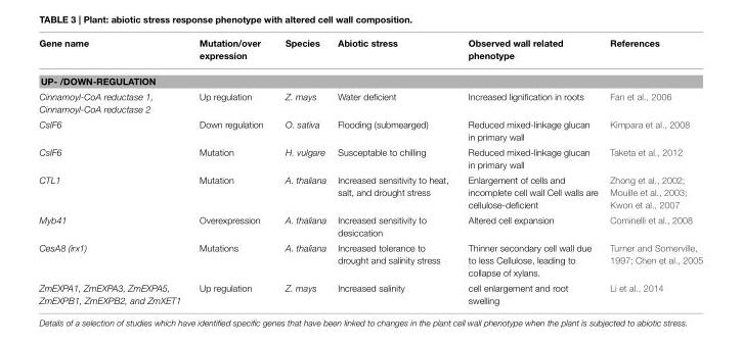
<table><thead><tr><td>Gene name</td><td>Mutation/over expression</td><td>Species</td><td>Abiotic stress</td><td>Observed wall related phenotype</td><td>References</td></tr></thead><tbody><tr><td colspan="6">UP- /DOWN-REGULATION</td></tr><tr><td>Cinnamoyl-CoA reductase 1, Cinnamoyl-CoA reductase 2</td><td>Up regulation</td><td>Z. mays</td><td>Water deficient</td><td>Increased lignification in roots</td><td>Fan et al., 2006</td></tr><tr><td>CslF6</td><td>Down regulation</td><td>O. sativa</td><td>Flooding (submearged)</td><td>Reduced mixed-linkage glucan in primary wall</td><td>Kimpara et al., 2008</td></tr><tr><td>CslF6</td><td>Mutation</td><td>H. vulgare</td><td>Susceptable to chilling</td><td>Reduced mixed-linkage glucan in primary wall</td><td>Taketa et al., 2012</td></tr><tr><td>CTL1</td><td>Mutation</td><td>A. thaliana</td><td>Increased sensitivity to heat, salt, and drought stress</td><td>Enlargement of cells and incomplete cell wall Cell walls are cellulose-deficient</td><td>Zhong et al., 2002; Mouille et al., 2003; Kwon et al., 2007</td></tr><tr><td>Myb41</td><td>Overexpression</td><td>A. thaliana</td><td>Increased sensitivity to desiccation</td><td>Altered cell expansion</td><td>Cominelli et al., 2008</td></tr><tr><td>CesA8 (irx1)</td><td>Mutations</td><td>A. thaliana</td><td>Increased tolerance to drought and salinity stress</td><td>Thinner secondary cell wall due to less Cellulose, leading to collapse of xylans.</td><td>Turner and Somerville, 1997; Chen et al., 2005</td></tr><tr><td>ZmEXPA1, ZmEXPA3, ZmEXPA5, ZmEXPB1, ZmEXPB2, and ZmXET1</td><td>Up regulation</td><td>Z. mays</td><td>Increased salinity</td><td>cell enlargement and root swelling</td><td>Li et al., 2014</td></tr></tbody></table>